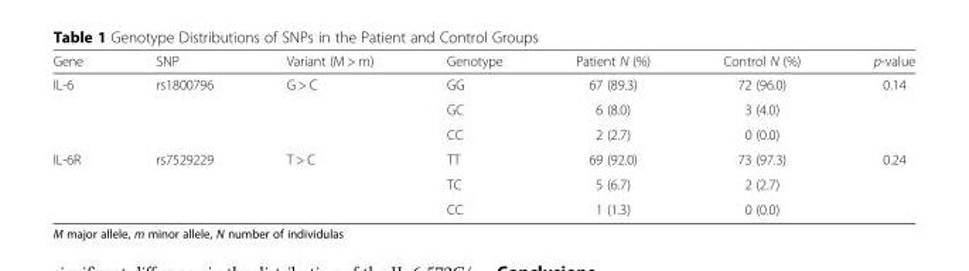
<table><thead><tr><td>Gene</td><td>SNP</td><td>Variant (M &gt; m)</td><td>Genotype</td><td>Patient N (%)</td><td>Control N (%)</td><td>p-value</td></tr></thead><tbody><tr><td rowspan="3">IL-6</td><td rowspan="3">rs1800796</td><td rowspan="3">G &gt; C</td><td>GG</td><td>67 (89.3)</td><td>72 (96.0)</td><td rowspan="3">0.14</td></tr><tr><td>GC</td><td>6 (8.0)</td><td>3 (4.0)</td></tr><tr><td>CC</td><td>2 (2.7)</td><td>0 (0.0)</td></tr><tr><td rowspan="3">IL-6R</td><td rowspan="3">rs7529229</td><td rowspan="3">T &gt; C</td><td>TT</td><td>69 (92.0)</td><td>73 (97.3)</td><td rowspan="3">0.24</td></tr><tr><td>TC</td><td>5 (6.7)</td><td>2 (2.7)</td></tr><tr><td>CC</td><td>1 (1.3)</td><td>0 (0.0)</td></tr></tbody></table>